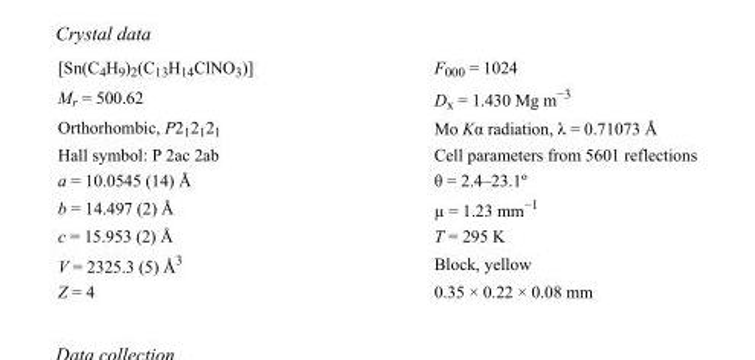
<table><tbody><tr><td>[Sn(C<sub>4</sub>H<sub>9</sub>)<sub>2</sub>(C<sub>13</sub>H<sub>14</sub>ClNO<sub>3</sub>)]</td><td>F000 = 1024</td></tr><tr><td>M<sub>r</sub> = 500.62</td><td>D<sub>x</sub> = 1.430 Mg m<sup>−3</sup></td></tr><tr><td>Orthorhombic, P2<sub>1</sub>2<sub>1</sub>2<sub>1</sub></td><td>Mo Kα radiation, λ = 0.71073 Å</td></tr><tr><td>Hall symbol: P 2ac 2ab</td><td>Cell parameters from 5601 reflections</td></tr><tr><td>a = 10.0545 (14) Å</td><td>θ = 2.4–23.1º</td></tr><tr><td>b = 14.497 (2) Å</td><td>µ = 1.23 mm<sup>−1</sup></td></tr><tr><td>c = 15.953 (2) Å</td><td>T = 295 K</td></tr><tr><td>V = 2325.3 (5) Å<sup>3</sup></td><td>Block, yellow</td></tr><tr><td>Z = 4</td><td>0.35 × 0.22 × 0.08 mm</td></tr></tbody></table>